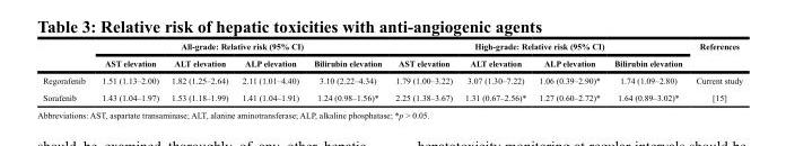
<table><thead><tr><td rowspan="2"></td><td colspan="4">All-grade: Relative risk (95% CI)</td><td colspan="4">High-grade: Relative risk (95% CI)</td><td rowspan="2">References</td></tr><tr><td>AST elevation</td><td>ALT elevation</td><td>ALP elevation</td><td>Bilirubin elevation</td><td>AST elevation</td><td>ALT elevation</td><td>ALP elevation</td><td>Bilirubin elevation</td></tr></thead><tbody><tr><td>Regorafenib</td><td>1.51 (1.13–2.00)</td><td>1.82 (1.25–2.64)</td><td>2.11 (1.01–4.40)</td><td>3.10 (2.22–4.34)</td><td>1.79 (1.00–3.22)</td><td>3.07 (1.30–7.22)</td><td>1.06 (0.39–2.90)*</td><td>1.74 (1.09–2.80)</td><td>Current study</td></tr><tr><td>Sorafenib</td><td>1.43 (1.04–1.97)</td><td>1.53 (1.18–1.99)</td><td>1.41 (1.04–1.91)</td><td>1.24 (0.98–1.56)*</td><td>2.25 (1.38–3.67)</td><td>1.31 (0.67–2.56)*</td><td>1.27 (0.60–2.72)*</td><td>1.64 (0.89–3.02)*</td><td>[15]</td></tr></tbody></table>